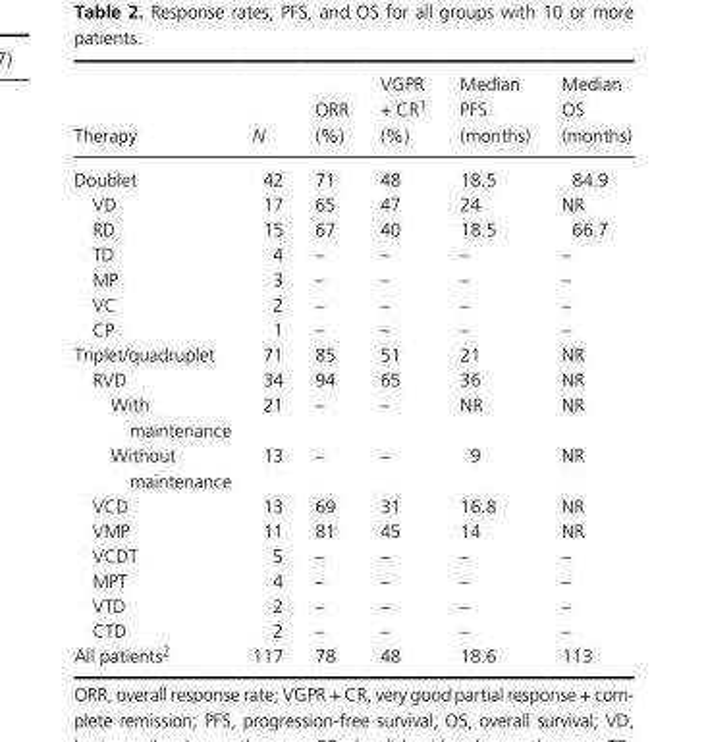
<table><thead><tr><td>Therapy</td><td>N</td><td>ORR (%)</td><td>VGPR + CR1 (%)</td><td>Median PFS (months)</td><td>Median OS (months)</td></tr></thead><tbody><tr><td>Doublet</td><td>42</td><td>71</td><td>48</td><td>18.5</td><td>84.9</td></tr><tr><td>VD</td><td>17</td><td>65</td><td>47</td><td>24</td><td>NR</td></tr><tr><td>RD</td><td>15</td><td>67</td><td>40</td><td>18.5</td><td>66.7</td></tr><tr><td>TD</td><td>4</td><td>–</td><td>–</td><td>–</td><td>–</td></tr><tr><td>MP</td><td>3</td><td>–</td><td>–</td><td>–</td><td>–</td></tr><tr><td>VC</td><td>2</td><td>–</td><td>–</td><td>–</td><td>–</td></tr><tr><td>CP</td><td>1</td><td>–</td><td>–</td><td>–</td><td>–</td></tr><tr><td>Triplet/quadruplet</td><td>71</td><td>85</td><td>51</td><td>21</td><td>NR</td></tr><tr><td>RVD</td><td>34</td><td>94</td><td>65</td><td>36</td><td>NR</td></tr><tr><td>With maintenance</td><td>21</td><td>–</td><td>–</td><td>NR</td><td>NR</td></tr><tr><td>Without maintenance</td><td>13</td><td>–</td><td>–</td><td>9</td><td>NR</td></tr><tr><td>VCD</td><td>13</td><td>69</td><td>31</td><td>16.8</td><td>NR</td></tr><tr><td>VMP</td><td>11</td><td>81</td><td>45</td><td>14</td><td>NR</td></tr><tr><td>VCDT</td><td>5</td><td>–</td><td>–</td><td>–</td><td>–</td></tr><tr><td>MPT</td><td>4</td><td>–</td><td>–</td><td>–</td><td>–</td></tr><tr><td>VTD</td><td>2</td><td>–</td><td>–</td><td>–</td><td>–</td></tr><tr><td>CTD</td><td>2</td><td>–</td><td>–</td><td>–</td><td>–</td></tr><tr><td>All patients2</td><td>117</td><td>78</td><td>48</td><td>18.6</td><td>113</td></tr></tbody></table>